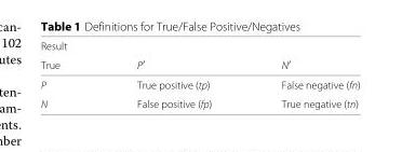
<table><thead><tr><td rowspan="2">Result True</td><td rowspan="2">P<sup>′</sup></td><td rowspan="2">N<sup>′</sup></td></tr><tr></tr></thead><tbody><tr><td>P</td><td>True positive (tp)</td><td>False negative (fn)</td></tr><tr><td>N</td><td>False positive (fp)</td><td>True negative (tn)</td></tr></tbody></table>